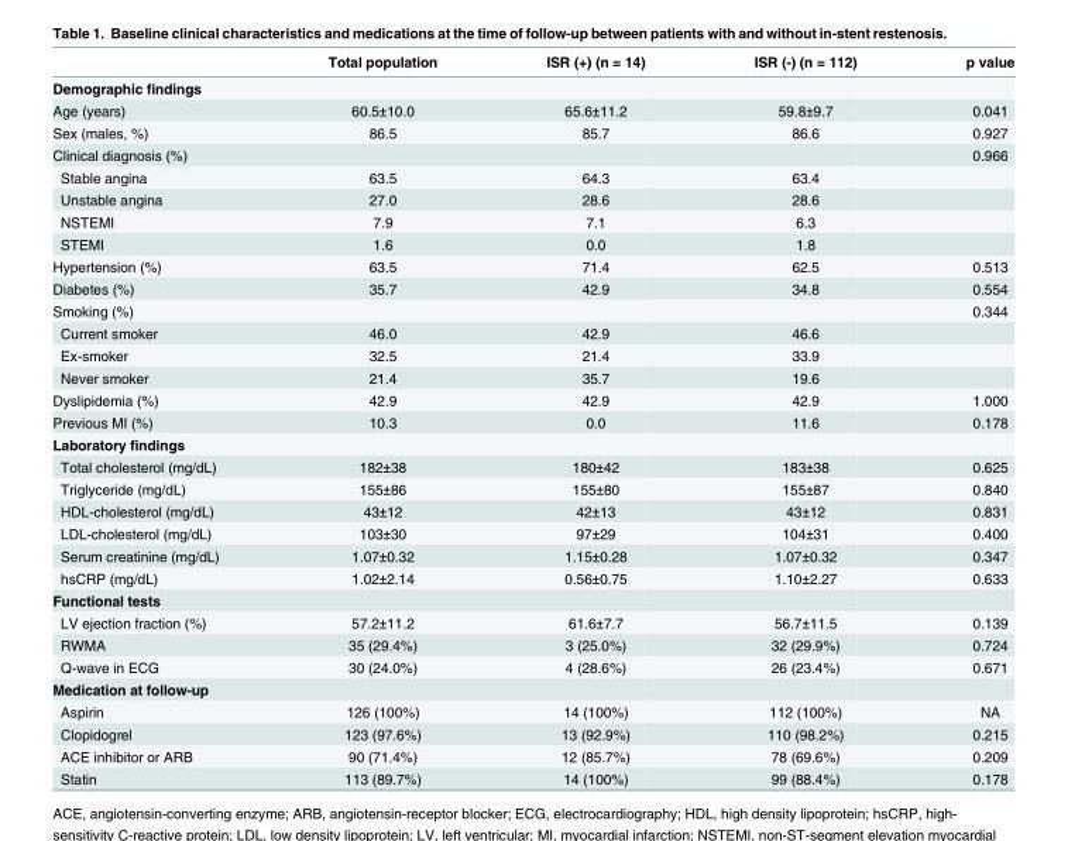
<table><thead><tr><td></td><td>Total population</td><td>ISR (+) (n = 14)</td><td>ISR (-) (n = 112)</td><td>p value</td></tr></thead><tbody><tr><td colspan="5">Demographic findings</td></tr><tr><td>Age (years)</td><td>60.5±10.0</td><td>65.6±11.2</td><td>59.8±9.7</td><td>0.041</td></tr><tr><td>Sex (males, %)</td><td>86.5</td><td>85.7</td><td>86.6</td><td>0.927</td></tr><tr><td>Clinical diagnosis (%)</td><td></td><td></td><td></td><td>0.966</td></tr><tr><td>Stable angina</td><td>63.5</td><td>64.3</td><td>63.4</td><td></td></tr><tr><td>Unstable angina</td><td>27.0</td><td>28.6</td><td>28.6</td><td></td></tr><tr><td>NSTEMI</td><td>7.9</td><td>7.1</td><td>6.3</td><td></td></tr><tr><td>STEMI</td><td>1.6</td><td>0.0</td><td>1.8</td><td></td></tr><tr><td>Hypertension (%)</td><td>63.5</td><td>71.4</td><td>62.5</td><td>0.513</td></tr><tr><td>Diabetes (%)</td><td>35.7</td><td>42.9</td><td>34.8</td><td>0.554</td></tr><tr><td>Smoking (%)</td><td></td><td></td><td></td><td>0.344</td></tr><tr><td>Current smoker</td><td>46.0</td><td>42.9</td><td>46.6</td><td></td></tr><tr><td>Ex-smoker</td><td>32.5</td><td>21.4</td><td>33.9</td><td></td></tr><tr><td>Never smoker</td><td>21.4</td><td>35.7</td><td>19.6</td><td></td></tr><tr><td>Dyslipidemia (%)</td><td>42.9</td><td>42.9</td><td>42.9</td><td>1.000</td></tr><tr><td>Previous MI (%)</td><td>10.3</td><td>0.0</td><td>11.6</td><td>0.178</td></tr><tr><td colspan="5">Laboratory findings</td></tr><tr><td>Total cholesterol (mg/dL)</td><td>182±38</td><td>180±42</td><td>183±38</td><td>0.625</td></tr><tr><td>Triglyceride (mg/dL)</td><td>155±86</td><td>155±80</td><td>155±87</td><td>0.840</td></tr><tr><td>HDL-cholesterol (mg/dL)</td><td>43±12</td><td>42±13</td><td>43±12</td><td>0.831</td></tr><tr><td>LDL-cholesterol (mg/dL)</td><td>103±30</td><td>97±29</td><td>104±31</td><td>0.400</td></tr><tr><td>Serum creatinine (mg/dL)</td><td>1.07±0.32</td><td>1.15±0.28</td><td>1.07±0.32</td><td>0.347</td></tr><tr><td>hsCRP (mg/dL)</td><td>1.02±2.14</td><td>0.56±0.75</td><td>1.10±2.27</td><td>0.633</td></tr><tr><td colspan="5">Functional tests</td></tr><tr><td>LV ejection fraction (%)</td><td>57.2±11.2</td><td>61.6±7.7</td><td>56.7±11.5</td><td>0.139</td></tr><tr><td>RWMA</td><td>35 (29.4%)</td><td>3 (25.0%)</td><td>32 (29.9%)</td><td>0.724</td></tr><tr><td>Q-wave in ECG</td><td>30 (24.0%)</td><td>4 (28.6%)</td><td>26 (23.4%)</td><td>0.671</td></tr><tr><td colspan="5">Medication at follow-up</td></tr><tr><td>Aspirin</td><td>126 (100%)</td><td>14 (100%)</td><td>112 (100%)</td><td>NA</td></tr><tr><td>Clopidogrel</td><td>123 (97.6%)</td><td>13 (92.9%)</td><td>110 (98.2%)</td><td>0.215</td></tr><tr><td>ACE inhibitor or ARB</td><td>90 (71.4%)</td><td>12 (85.7%)</td><td>78 (69.6%)</td><td>0.209</td></tr><tr><td>Statin</td><td>113 (89.7%)</td><td>14 (100%)</td><td>99 (88.4%)</td><td>0.178</td></tr></tbody></table>